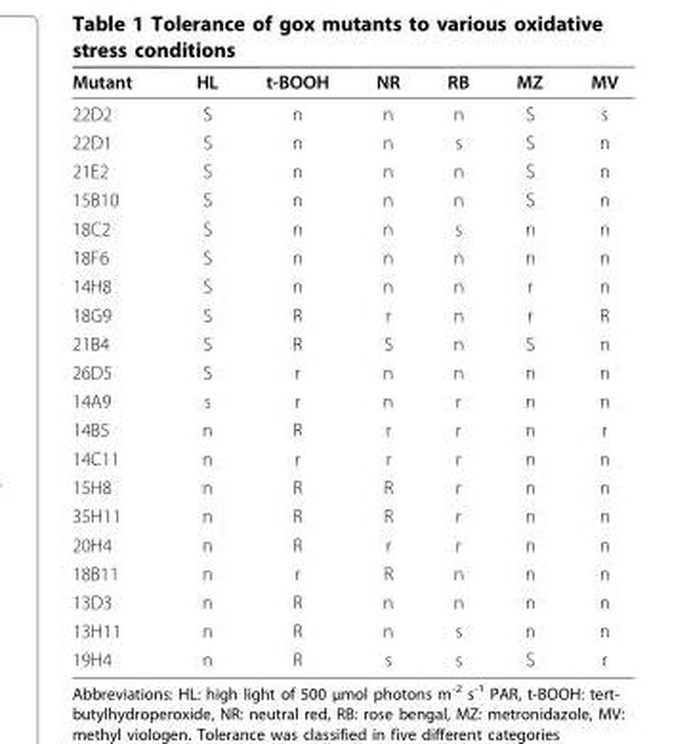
<table><thead><tr><td>Mutant</td><td>HL</td><td>t-BOOH</td><td>NR</td><td>RB</td><td>MZ</td><td>MV</td></tr></thead><tbody><tr><td>22D2</td><td>S</td><td>n</td><td>n</td><td>n</td><td>S</td><td>s</td></tr><tr><td>22D1</td><td>S</td><td>n</td><td>n</td><td>s</td><td>S</td><td>n</td></tr><tr><td>21E2</td><td>S</td><td>n</td><td>n</td><td>n</td><td>S</td><td>n</td></tr><tr><td>15B10</td><td>S</td><td>n</td><td>n</td><td>n</td><td>S</td><td>n</td></tr><tr><td>18C2</td><td>S</td><td>n</td><td>n</td><td>s</td><td>n</td><td>n</td></tr><tr><td>18F6</td><td>S</td><td>n</td><td>n</td><td>n</td><td>n</td><td>n</td></tr><tr><td>14H8</td><td>S</td><td>n</td><td>n</td><td>n</td><td>r</td><td>n</td></tr><tr><td>18G9</td><td>S</td><td>R</td><td>r</td><td>n</td><td>r</td><td>R</td></tr><tr><td>21B4</td><td>S</td><td>R</td><td>S</td><td>n</td><td>S</td><td>n</td></tr><tr><td>26D5</td><td>S</td><td>r</td><td>n</td><td>n</td><td>n</td><td>n</td></tr><tr><td>14A9</td><td>s</td><td>r</td><td>n</td><td>r</td><td>n</td><td>n</td></tr><tr><td>14B5</td><td>n</td><td>R</td><td>r</td><td>r</td><td>n</td><td>r</td></tr><tr><td>14C11</td><td>n</td><td>r</td><td>r</td><td>r</td><td>n</td><td>n</td></tr><tr><td>15H8</td><td>n</td><td>R</td><td>R</td><td>r</td><td>n</td><td>n</td></tr><tr><td>35H11</td><td>n</td><td>R</td><td>R</td><td>r</td><td>n</td><td>n</td></tr><tr><td>20H4</td><td>n</td><td>R</td><td>r</td><td>r</td><td>n</td><td>n</td></tr><tr><td>18B11</td><td>n</td><td>r</td><td>R</td><td>n</td><td>n</td><td>n</td></tr><tr><td>13D3</td><td>n</td><td>R</td><td>n</td><td>n</td><td>n</td><td>n</td></tr><tr><td>13H11</td><td>n</td><td>R</td><td>n</td><td>s</td><td>n</td><td>n</td></tr><tr><td>19H4</td><td>n</td><td>R</td><td>s</td><td>s</td><td>S</td><td>r</td></tr></tbody></table>